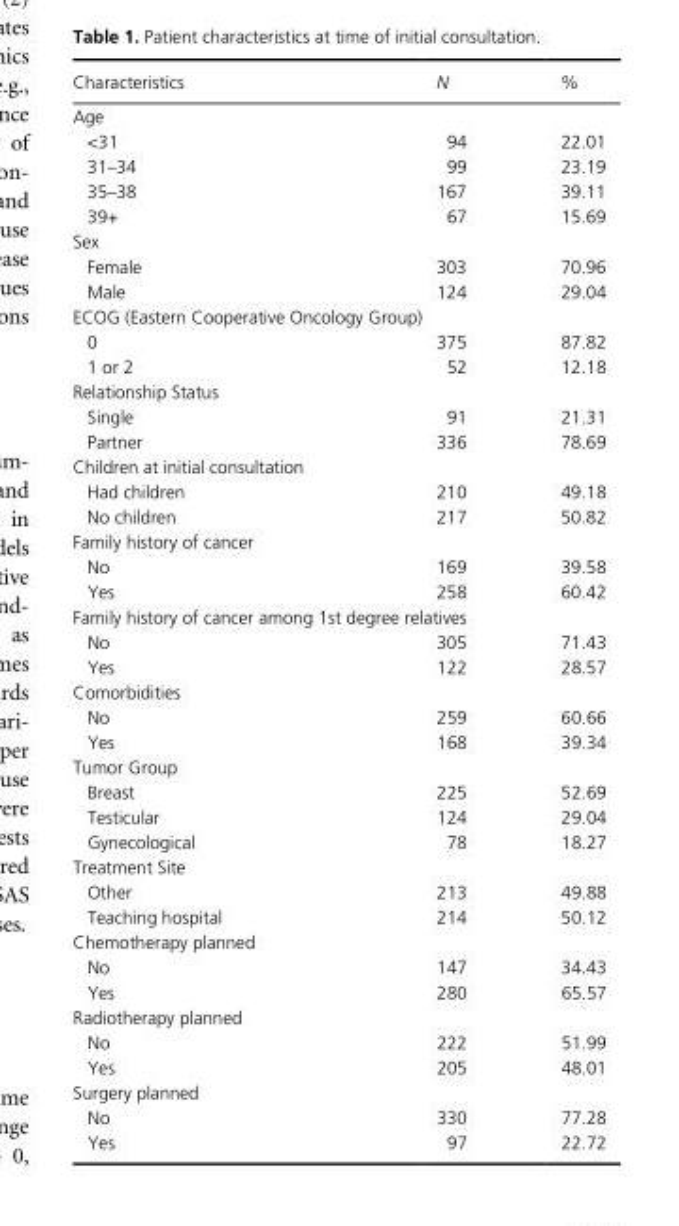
<table><thead><tr><td>Characteristics</td><td>N</td><td>%</td></tr></thead><tbody><tr><td colspan="3">Age</td></tr><tr><td>&lt;31</td><td>94</td><td>22.01</td></tr><tr><td>31–34</td><td>99</td><td>23.19</td></tr><tr><td>35–38</td><td>167</td><td>39.11</td></tr><tr><td>39+</td><td>67</td><td>15.69</td></tr><tr><td colspan="3">Sex</td></tr><tr><td>Female</td><td>303</td><td>70.96</td></tr><tr><td>Male</td><td>124</td><td>29.04</td></tr><tr><td colspan="3">ECOG (Eastern Cooperative Oncology Group)</td></tr><tr><td>0</td><td>375</td><td>87.82</td></tr><tr><td>1 or 2</td><td>52</td><td>12.18</td></tr><tr><td colspan="3">Relationship Status</td></tr><tr><td>Single</td><td>91</td><td>21.31</td></tr><tr><td>Partner</td><td>336</td><td>78.69</td></tr><tr><td colspan="3">Children at initial consultation</td></tr><tr><td>Had children</td><td>210</td><td>49.18</td></tr><tr><td>No children</td><td>217</td><td>50.82</td></tr><tr><td colspan="3">Family history of cancer</td></tr><tr><td>No</td><td>169</td><td>39.58</td></tr><tr><td>Yes</td><td>258</td><td>60.42</td></tr><tr><td colspan="3">Family history of cancer among 1st degree relatives</td></tr><tr><td>No</td><td>305</td><td>71.43</td></tr><tr><td>Yes</td><td>122</td><td>28.57</td></tr><tr><td colspan="3">Comorbidities</td></tr><tr><td>No</td><td>259</td><td>60.66</td></tr><tr><td>Yes</td><td>168</td><td>39.34</td></tr><tr><td colspan="3">Tumor Group</td></tr><tr><td>Breast</td><td>225</td><td>52.69</td></tr><tr><td>Testicular</td><td>124</td><td>29.04</td></tr><tr><td>Gynecological</td><td>78</td><td>18.27</td></tr><tr><td colspan="3">Treatment Site</td></tr><tr><td>Other</td><td>213</td><td>49.88</td></tr><tr><td>Teaching hospital</td><td>214</td><td>50.12</td></tr><tr><td colspan="3">Chemotherapy planned</td></tr><tr><td>No</td><td>147</td><td>34.43</td></tr><tr><td>Yes</td><td>280</td><td>65.57</td></tr><tr><td colspan="3">Radiotherapy planned</td></tr><tr><td>No</td><td>222</td><td>51.99</td></tr><tr><td>Yes</td><td>205</td><td>48.01</td></tr><tr><td colspan="3">Surgery planned</td></tr><tr><td>No</td><td>330</td><td>77.28</td></tr><tr><td>Yes</td><td>97</td><td>22.72</td></tr></tbody></table>